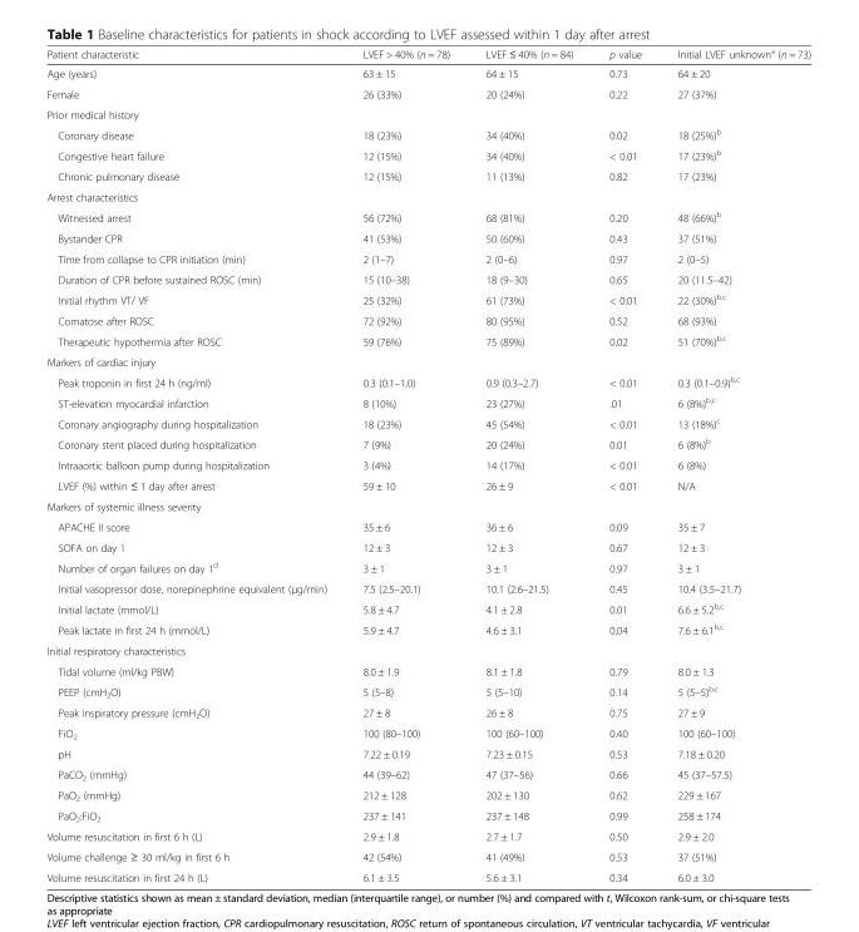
<table><thead><tr><td>Patient characteristic</td><td>LVEF &gt; 40% (n = 78)</td><td>LVEF ≤ 40% (n = 84)</td><td>p value</td><td>Initial LVEF unknown<sup>a</sup> (n = 73)</td></tr></thead><tbody><tr><td>Age (years)</td><td>63 ± 15</td><td>64 ± 15</td><td>0.73</td><td>64 ± 20</td></tr><tr><td>Female</td><td>26 (33%)</td><td>20 (24%)</td><td>0.22</td><td>27 (37%)</td></tr><tr><td colspan="5">Prior medical history</td></tr><tr><td>Coronary disease</td><td>18 (23%)</td><td>34 (40%)</td><td>0.02</td><td>18 (25%)<sup>b</sup></td></tr><tr><td>Congestive heart failure</td><td>12 (15%)</td><td>34 (40%)</td><td>&lt; 0.01</td><td>17 (23%)<sup>b</sup></td></tr><tr><td>Chronic pulmonary disease</td><td>12 (15%)</td><td>11 (13%)</td><td>0.82</td><td>17 (23%)</td></tr><tr><td colspan="5">Arrest characteristics</td></tr><tr><td>Witnessed arrest</td><td>56 (72%)</td><td>68 (81%)</td><td>0.20</td><td>48 (66%)<sup>b</sup></td></tr><tr><td>Bystander CPR</td><td>41 (53%)</td><td>50 (60%)</td><td>0.43</td><td>37 (51%)</td></tr><tr><td>Time from collapse to CPR initiation (min)</td><td>2 (1–7)</td><td>2 (0–6)</td><td>0.97</td><td>2 (0–5)</td></tr><tr><td>Duration of CPR before sustained ROSC (min)</td><td>15 (10–38)</td><td>18 (9–30)</td><td>0.65</td><td>20 (11.5–42)</td></tr><tr><td>Initial rhythm VT/ VF</td><td>25 (32%)</td><td>61 (73%)</td><td>&lt; 0.01</td><td>22 (30%)<sup>b,c</sup></td></tr><tr><td>Comatose after ROSC</td><td>72 (92%)</td><td>80 (95%)</td><td>0.52</td><td>68 (93%)</td></tr><tr><td>Therapeutic hypothermia after ROSC</td><td>59 (76%)</td><td>75 (89%)</td><td>0.02</td><td>51 (70%)<sup>b,c</sup></td></tr><tr><td colspan="5">Markers of cardiac injury</td></tr><tr><td>Peak troponin in first 24 h (ng/ml)</td><td>0.3 (0.1–1.0)</td><td>0.9 (0.3–2.7)</td><td>&lt; 0.01</td><td>0.3 (0.1–0.9)<sup>b,c</sup></td></tr><tr><td>ST-elevation myocardial infarction</td><td>8 (10%)</td><td>23 (27%)</td><td>.01</td><td>6 (8%)<sup>b,c</sup></td></tr><tr><td>Coronary angiography during hospitalization</td><td>18 (23%)</td><td>45 (54%)</td><td>&lt; 0.01</td><td>13 (18%)<sup>c</sup></td></tr><tr><td>Coronary stent placed during hospitalization</td><td>7 (9%)</td><td>20 (24%)</td><td>0.01</td><td>6 (8%)<sup>b</sup></td></tr><tr><td>Intraaortic balloon pump during hospitalization</td><td>3 (4%)</td><td>14 (17%)</td><td>&lt; 0.01</td><td>6 (8%)</td></tr><tr><td>LVEF (%) within ≤ 1 day after arrest</td><td>59 ± 10</td><td>26 ± 9</td><td>&lt; 0.01</td><td>N/A</td></tr><tr><td colspan="5">Markers of systemic illness severity</td></tr><tr><td>APACHE II score</td><td>35 ± 6</td><td>36 ± 6</td><td>0.09</td><td>35 ± 7</td></tr><tr><td>SOFA on day 1</td><td>12 ± 3</td><td>12 ± 3</td><td>0.67</td><td>12 ± 3</td></tr><tr><td>Number of organ failures on day 1<sup>d</sup></td><td>3 ± 1</td><td>3 ± 1</td><td>0.97</td><td>3 ± 1</td></tr><tr><td>Initial vasopressor dose, norepinephrine equivalent (μg/min)</td><td>7.5 (2.5–20.1)</td><td>10.1 (2.6–21.5)</td><td>0.45</td><td>10.4 (3.5–21.7)</td></tr><tr><td>Initial lactate (mmol/L)</td><td>5.8 ± 4.7</td><td>4.1 ± 2.8</td><td>0.01</td><td>6.6 ± 5.2<sup>b,c</sup></td></tr><tr><td>Peak lactate in first 24 h (mmol/L)</td><td>5.9 ± 4.7</td><td>4.6 ± 3.1</td><td>0.04</td><td>7.6 ± 6.1<sup>b,c</sup></td></tr><tr><td colspan="5">Initial respiratory characteristics</td></tr><tr><td>Tidal volume (ml/kg PBW)</td><td>8.0 ± 1.9</td><td>8.1 ± 1.8</td><td>0.79</td><td>8.0 ± 1.3</td></tr><tr><td>PEEP (cmH<sub>2</sub>O)</td><td>5 (5–8)</td><td>5 (5–10)</td><td>0.14</td><td>5 (5–5)<sup>b,c</sup></td></tr><tr><td>Peak inspiratory pressure (cmH<sub>2</sub>O)</td><td>27 ± 8</td><td>26 ± 8</td><td>0.75</td><td>27 ± 9</td></tr><tr><td>FiO<sub>2</sub></td><td>100 (80–100)</td><td>100 (60–100)</td><td>0.40</td><td>100 (60–100)</td></tr><tr><td>pH</td><td>7.22 ± 0.19</td><td>7.23 ± 0.15</td><td>0.53</td><td>7.18 ± 0.20</td></tr><tr><td>PaCO<sub>2</sub> (mmHg)</td><td>44 (39–62)</td><td>47 (37–56)</td><td>0.66</td><td>45 (37–57.5)</td></tr><tr><td>PaO<sub>2</sub> (mmHg)</td><td>212 ± 128</td><td>202 ± 130</td><td>0.62</td><td>229 ± 167</td></tr><tr><td>PaO<sub>2</sub>:FiO<sub>2</sub></td><td>237 ± 141</td><td>237 ± 148</td><td>0.99</td><td>258 ± 174</td></tr><tr><td>Volume resuscitation in first 6 h (L)</td><td>2.9 ± 1.8</td><td>2.7 ± 1.7</td><td>0.50</td><td>2.9 ± 2.0</td></tr><tr><td>Volume challenge ≥ 30 ml/kg in first 6 h</td><td>42 (54%)</td><td>41 (49%)</td><td>0.53</td><td>37 (51%)</td></tr><tr><td>Volume resuscitation in first 24 h (L)</td><td>6.1 ± 3.5</td><td>5.6 ± 3.1</td><td>0.34</td><td>6.0 ± 3.0</td></tr></tbody></table>